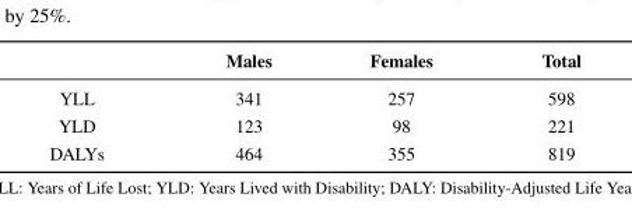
<table><thead><tr><td></td><td>Males</td><td>Females</td><td>Total</td></tr></thead><tbody><tr><td>YLL</td><td>341</td><td>257</td><td>598</td></tr><tr><td>YLD</td><td>123</td><td>98</td><td>221</td></tr><tr><td>DALYs</td><td>464</td><td>355</td><td>819</td></tr></tbody></table>